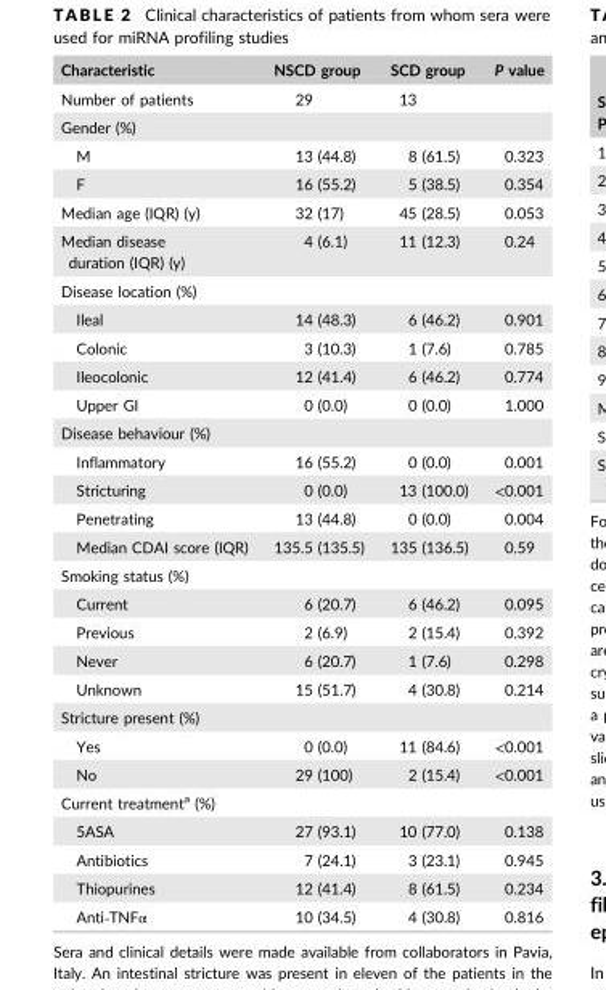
<table><thead><tr><td>Characteristic</td><td>NSCD group</td><td>SCD group</td><td>P value</td></tr></thead><tbody><tr><td>Number of patients</td><td>29</td><td>13</td><td></td></tr><tr><td colspan="4">Gender (%)</td></tr><tr><td>M</td><td>13 (44.8)</td><td>8 (61.5)</td><td>0.323</td></tr><tr><td>F</td><td>16 (55.2)</td><td>5 (38.5)</td><td>0.354</td></tr><tr><td>Median age (IQR) (y)</td><td>32 (17)</td><td>45 (28.5)</td><td>0.053</td></tr><tr><td>Median disease duration (IQR) (y)</td><td>4 (6.1)</td><td>11 (12.3)</td><td>0.24</td></tr><tr><td colspan="4">Disease location (%)</td></tr><tr><td>Ileal</td><td>14 (48.3)</td><td>6 (46.2)</td><td>0.901</td></tr><tr><td>Colonic</td><td>3 (10.3)</td><td>1 (7.6)</td><td>0.785</td></tr><tr><td>Ileocolonic</td><td>12 (41.4)</td><td>6 (46.2)</td><td>0.774</td></tr><tr><td>Upper GI</td><td>0 (0.0)</td><td>0 (0.0)</td><td>1.000</td></tr><tr><td colspan="4">Disease behaviour (%)</td></tr><tr><td>Inflammatory</td><td>16 (55.2)</td><td>0 (0.0)</td><td>0.001</td></tr><tr><td>Stricturing</td><td>0 (0.0)</td><td>13 (100.0)</td><td>&lt;0.001</td></tr><tr><td>Penetrating</td><td>13 (44.8)</td><td>0 (0.0)</td><td>0.004</td></tr><tr><td>Median CDAI score (IQR)</td><td>135.5 (135.5)</td><td>135 (136.5)</td><td>0.59</td></tr><tr><td colspan="4">Smoking status (%)</td></tr><tr><td>Current</td><td>6 (20.7)</td><td>6 (46.2)</td><td>0.095</td></tr><tr><td>Previous</td><td>2 (6.9)</td><td>2 (15.4)</td><td>0.392</td></tr><tr><td>Never</td><td>6 (20.7)</td><td>1 (7.6)</td><td>0.298</td></tr><tr><td>Unknown</td><td>15 (51.7)</td><td>4 (30.8)</td><td>0.214</td></tr><tr><td colspan="4">Stricture present (%)</td></tr><tr><td>Yes</td><td>0 (0.0)</td><td>11 (84.6)</td><td>&lt;0.001</td></tr><tr><td>No</td><td>29 (100)</td><td>2 (15.4)</td><td>&lt;0.001</td></tr><tr><td colspan="4">Current treatment<sup>a</sup> (%)</td></tr><tr><td>5ASA</td><td>27 (93.1)</td><td>10 (77.0)</td><td>0.138</td></tr><tr><td>Antibiotics</td><td>7 (24.1)</td><td>3 (23.1)</td><td>0.945</td></tr><tr><td>Thiopurines</td><td>12 (41.4)</td><td>8 (61.5)</td><td>0.234</td></tr><tr><td>Anti‐TNFα</td><td>10 (34.5)</td><td>4 (30.8)</td><td>0.816</td></tr></tbody></table>